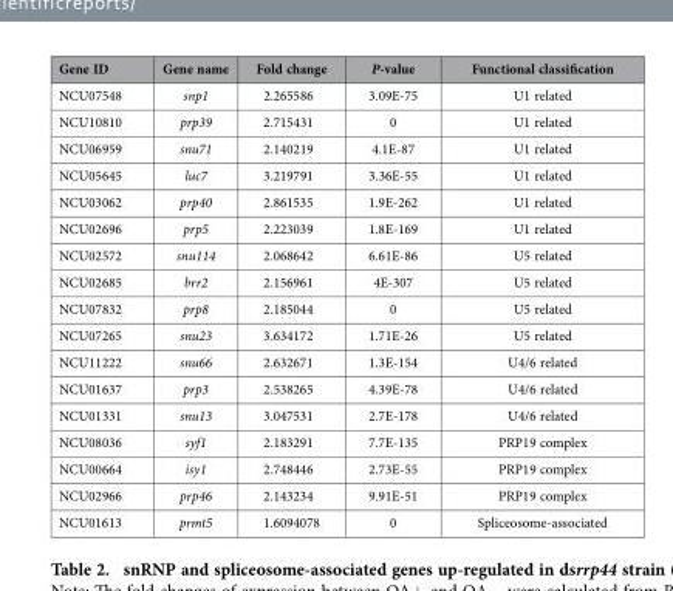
<table><thead><tr><td>Gene ID</td><td>Gene name</td><td>Fold change</td><td>P-value</td><td>Functional classification</td></tr></thead><tbody><tr><td>NCU07548</td><td>snp1</td><td>2.265586</td><td>3.09E-75</td><td>U1 related</td></tr><tr><td>NCU10810</td><td>prp39</td><td>2.715431</td><td>0</td><td>U1 related</td></tr><tr><td>NCU06959</td><td>snu71</td><td>2.140219</td><td>4.1E-87</td><td>U1 related</td></tr><tr><td>NCU05645</td><td>luc7</td><td>3.219791</td><td>3.36E-55</td><td>U1 related</td></tr><tr><td>NCU03062</td><td>prp40</td><td>2.861535</td><td>1.9E-262</td><td>U1 related</td></tr><tr><td>NCU02696</td><td>prp5</td><td>2.223039</td><td>1.8E-169</td><td>U1 related</td></tr><tr><td>NCU02572</td><td>snu114</td><td>2.068642</td><td>6.61E-86</td><td>U5 related</td></tr><tr><td>NCU02685</td><td>brr2</td><td>2.156961</td><td>4E-307</td><td>U5 related</td></tr><tr><td>NCU07832</td><td>prp8</td><td>2.185044</td><td>0</td><td>U5 related</td></tr><tr><td>NCU07265</td><td>snu23</td><td>3.634172</td><td>1.71E-26</td><td>U5 related</td></tr><tr><td>NCU11222</td><td>snu66</td><td>2.632671</td><td>1.3E-154</td><td>U4/6 related</td></tr><tr><td>NCU01637</td><td>prp3</td><td>2.538265</td><td>4.39E-78</td><td>U4/6 related</td></tr><tr><td>NCU01331</td><td>snu13</td><td>3.047531</td><td>2.7E-178</td><td>U4/6 related</td></tr><tr><td>NCU08036</td><td>syf1</td><td>2.183291</td><td>7.7E-135</td><td>PRP19 complex</td></tr><tr><td>NCU00664</td><td>isy1</td><td>2.748446</td><td>2.73E-55</td><td>PRP19 complex</td></tr><tr><td>NCU02966</td><td>prp46</td><td>2.143234</td><td>9.91E-51</td><td>PRP19 complex</td></tr><tr><td>NCU01613</td><td>prmt5</td><td>1.6094078</td><td>0</td><td>Spliceosome-associated</td></tr></tbody></table>